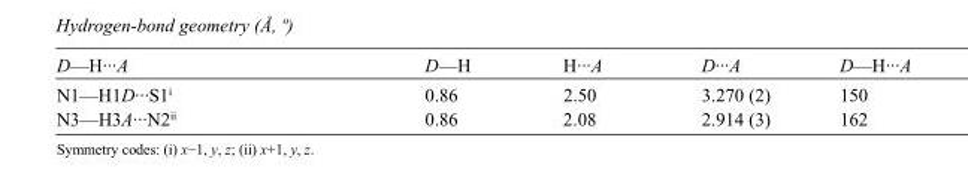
<table><tbody><tr><td>D—H···A</td><td>D—H</td><td>H···A</td><td>D···A</td><td>D—H···A</td></tr><tr><td>N1—H1D···S1<sup>i</sup></td><td>0.86</td><td>2.50</td><td>3.270 (2)</td><td>150</td></tr><tr><td>N3—H3A···N2<sup>ii</sup></td><td>0.86</td><td>2.08</td><td>2.914 (3)</td><td>162</td></tr></tbody></table>